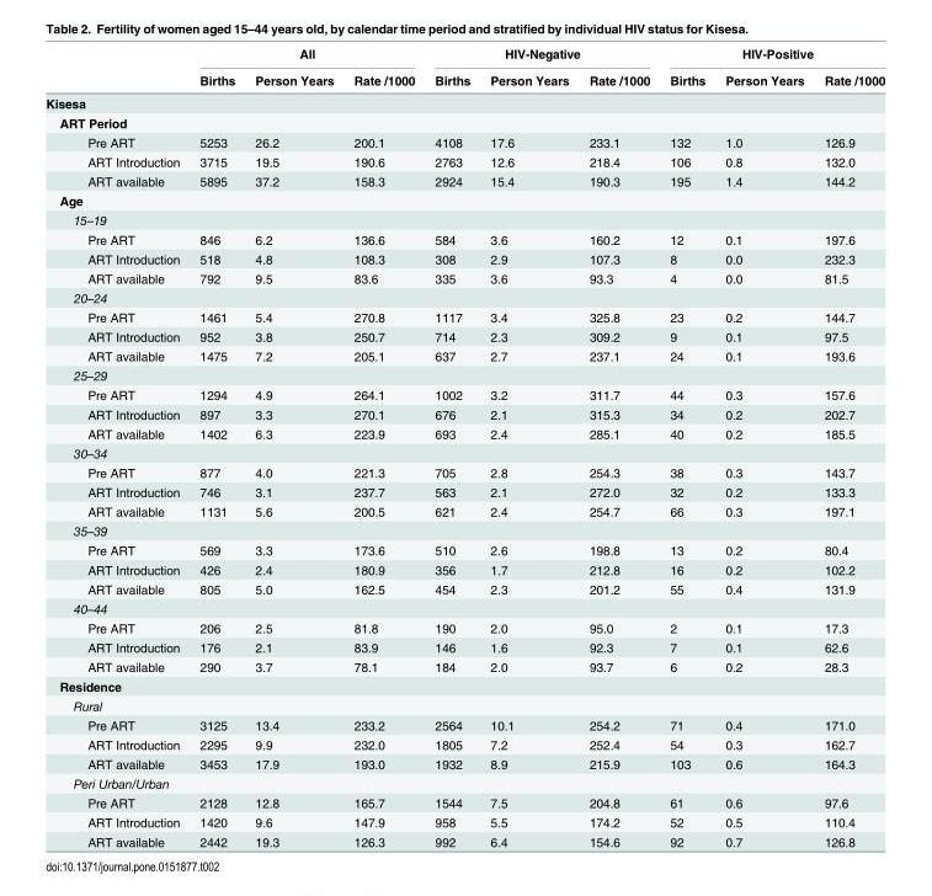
<table><thead><tr><td rowspan="2"></td><td colspan="3">All</td><td colspan="3">HIV-Negative</td><td colspan="3">HIV-Positive</td></tr><tr><td>Births</td><td>Person Years</td><td>Rate /1000</td><td>Births</td><td>Person Years</td><td>Rate /1000</td><td>Births</td><td>Person Years</td><td>Rate /1000</td></tr></thead><tbody><tr><td colspan="10">Kisesa</td></tr><tr><td colspan="10">ART Period</td></tr><tr><td>Pre ART</td><td>5253</td><td>26.2</td><td>200.1</td><td>4108</td><td>17.6</td><td>233.1</td><td>132</td><td>1.0</td><td>126.9</td></tr><tr><td>ART Introduction</td><td>3715</td><td>19.5</td><td>190.6</td><td>2763</td><td>12.6</td><td>218.4</td><td>106</td><td>0.8</td><td>132.0</td></tr><tr><td>ART available</td><td>5895</td><td>37.2</td><td>158.3</td><td>2924</td><td>15.4</td><td>190.3</td><td>195</td><td>1.4</td><td>144.2</td></tr><tr><td colspan="10">Age</td></tr><tr><td colspan="10">15–19</td></tr><tr><td>Pre ART</td><td>846</td><td>6.2</td><td>136.6</td><td>584</td><td>3.6</td><td>160.2</td><td>12</td><td>0.1</td><td>197.6</td></tr><tr><td>ART Introduction</td><td>518</td><td>4.8</td><td>108.3</td><td>308</td><td>2.9</td><td>107.3</td><td>8</td><td>0.0</td><td>232.3</td></tr><tr><td>ART available</td><td>792</td><td>9.5</td><td>83.6</td><td>335</td><td>3.6</td><td>93.3</td><td>4</td><td>0.0</td><td>81.5</td></tr><tr><td colspan="10">20–24</td></tr><tr><td>Pre ART</td><td>1461</td><td>5.4</td><td>270.8</td><td>1117</td><td>3.4</td><td>325.8</td><td>23</td><td>0.2</td><td>144.7</td></tr><tr><td>ART Introduction</td><td>952</td><td>3.8</td><td>250.7</td><td>714</td><td>2.3</td><td>309.2</td><td>9</td><td>0.1</td><td>97.5</td></tr><tr><td>ART available</td><td>1475</td><td>7.2</td><td>205.1</td><td>637</td><td>2.7</td><td>237.1</td><td>24</td><td>0.1</td><td>193.6</td></tr><tr><td colspan="10">25–29</td></tr><tr><td>Pre ART</td><td>1294</td><td>4.9</td><td>264.1</td><td>1002</td><td>3.2</td><td>311.7</td><td>44</td><td>0.3</td><td>157.6</td></tr><tr><td>ART Introduction</td><td>897</td><td>3.3</td><td>270.1</td><td>676</td><td>2.1</td><td>315.3</td><td>34</td><td>0.2</td><td>202.7</td></tr><tr><td>ART available</td><td>1402</td><td>6.3</td><td>223.9</td><td>693</td><td>2.4</td><td>285.1</td><td>40</td><td>0.2</td><td>185.5</td></tr><tr><td colspan="10">30–34</td></tr><tr><td>Pre ART</td><td>877</td><td>4.0</td><td>221.3</td><td>705</td><td>2.8</td><td>254.3</td><td>38</td><td>0.3</td><td>143.7</td></tr><tr><td>ART Introduction</td><td>746</td><td>3.1</td><td>237.7</td><td>563</td><td>2.1</td><td>272.0</td><td>32</td><td>0.2</td><td>133.3</td></tr><tr><td>ART available</td><td>1131</td><td>5.6</td><td>200.5</td><td>621</td><td>2.4</td><td>254.7</td><td>66</td><td>0.3</td><td>197.1</td></tr><tr><td colspan="10">35–39</td></tr><tr><td>Pre ART</td><td>569</td><td>3.3</td><td>173.6</td><td>510</td><td>2.6</td><td>198.8</td><td>13</td><td>0.2</td><td>80.4</td></tr><tr><td>ART Introduction</td><td>426</td><td>2.4</td><td>180.9</td><td>356</td><td>1.7</td><td>212.8</td><td>16</td><td>0.2</td><td>102.2</td></tr><tr><td>ART available</td><td>805</td><td>5.0</td><td>162.5</td><td>454</td><td>2.3</td><td>201.2</td><td>55</td><td>0.4</td><td>131.9</td></tr><tr><td colspan="10">40–44</td></tr><tr><td>Pre ART</td><td>206</td><td>2.5</td><td>81.8</td><td>190</td><td>2.0</td><td>95.0</td><td>2</td><td>0.1</td><td>17.3</td></tr><tr><td>ART Introduction</td><td>176</td><td>2.1</td><td>83.9</td><td>146</td><td>1.6</td><td>92.3</td><td>7</td><td>0.1</td><td>62.6</td></tr><tr><td>ART available</td><td>290</td><td>3.7</td><td>78.1</td><td>184</td><td>2.0</td><td>93.7</td><td>6</td><td>0.2</td><td>28.3</td></tr><tr><td colspan="10">Residence</td></tr><tr><td colspan="10">Rural</td></tr><tr><td>Pre ART</td><td>3125</td><td>13.4</td><td>233.2</td><td>2564</td><td>10.1</td><td>254.2</td><td>71</td><td>0.4</td><td>171.0</td></tr><tr><td>ART Introduction</td><td>2295</td><td>9.9</td><td>232.0</td><td>1805</td><td>7.2</td><td>252.4</td><td>54</td><td>0.3</td><td>162.7</td></tr><tr><td>ART available</td><td>3453</td><td>17.9</td><td>193.0</td><td>1932</td><td>8.9</td><td>215.9</td><td>103</td><td>0.6</td><td>164.3</td></tr><tr><td colspan="10">Peri Urban/Urban</td></tr><tr><td>Pre ART</td><td>2128</td><td>12.8</td><td>165.7</td><td>1544</td><td>7.5</td><td>204.8</td><td>61</td><td>0.6</td><td>97.6</td></tr><tr><td>ART Introduction</td><td>1420</td><td>9.6</td><td>147.9</td><td>958</td><td>5.5</td><td>174.2</td><td>52</td><td>0.5</td><td>110.4</td></tr><tr><td>ART available</td><td>2442</td><td>19.3</td><td>126.3</td><td>992</td><td>6.4</td><td>154.6</td><td>92</td><td>0.7</td><td>126.8</td></tr></tbody></table>